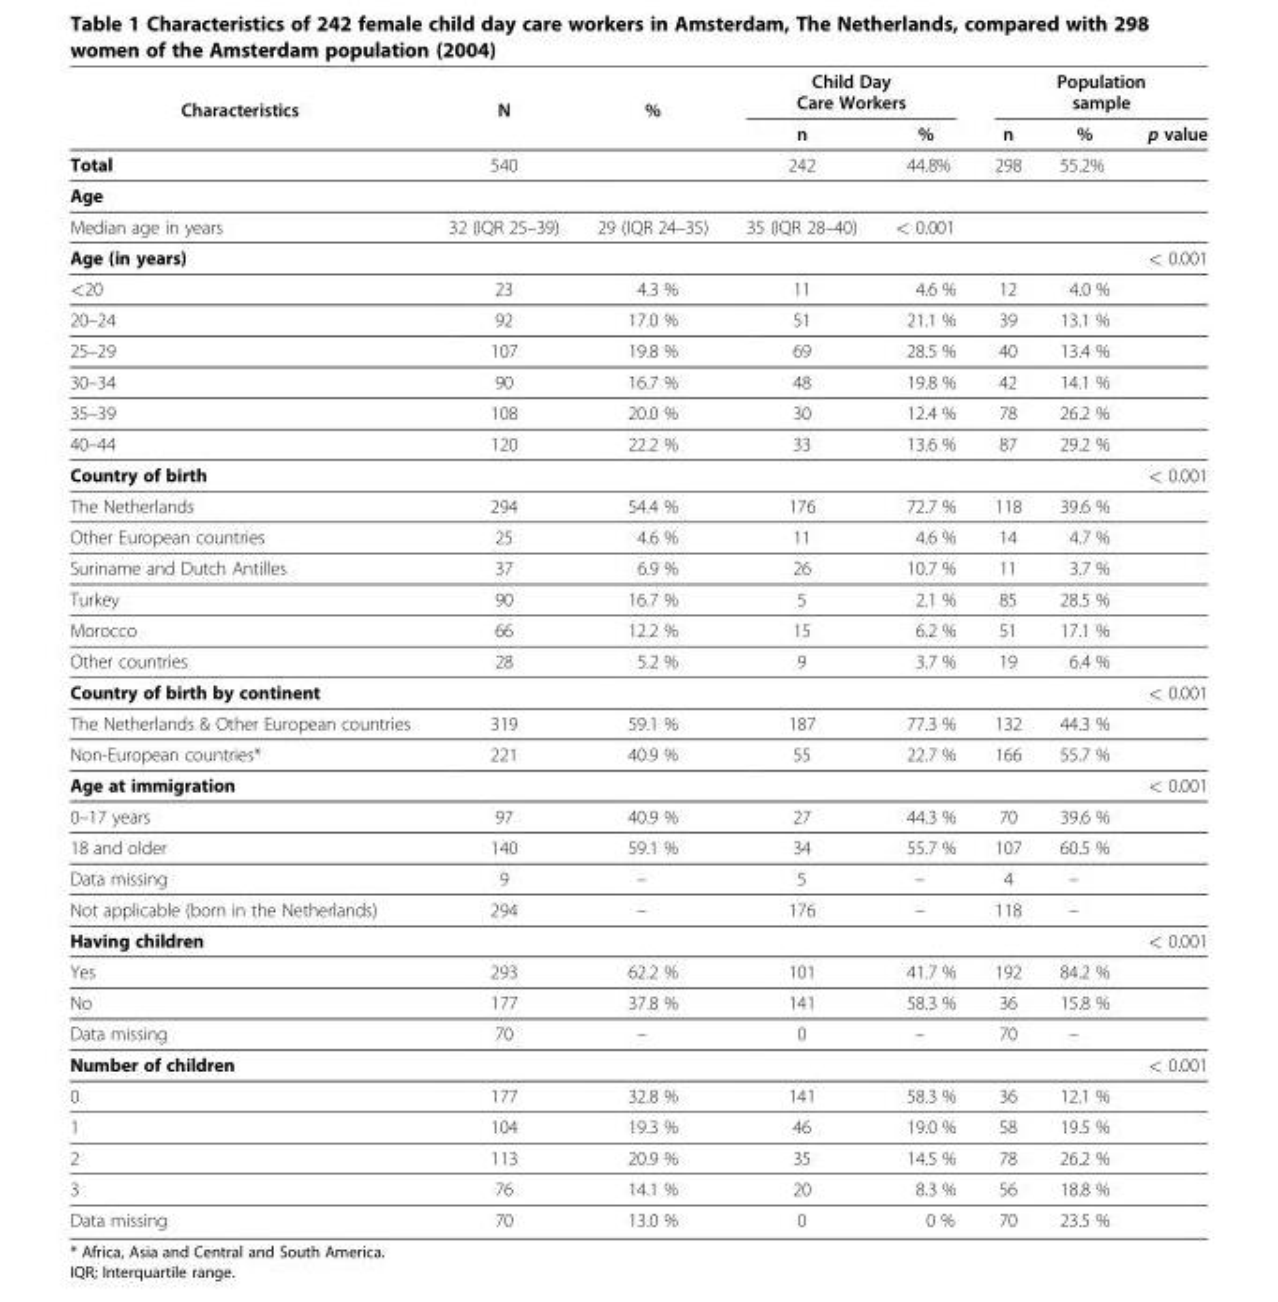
<table><thead><tr><td rowspan="2">Characteristics</td><td rowspan="2">N</td><td rowspan="2">%</td><td colspan="2">Child Day Care Workers</td><td colspan="3">Population sample</td></tr><tr><td>n</td><td>%</td><td>n</td><td>%</td><td>p value</td></tr></thead><tbody><tr><td>Total</td><td>540</td><td></td><td>242</td><td>44.8%</td><td>298</td><td>55.2%</td><td></td></tr><tr><td colspan="8">Age</td></tr><tr><td>Median age in years</td><td>32 (IQR 25–39)</td><td>29 (IQR 24–35)</td><td>35 (IQR 28–40)</td><td>&lt; 0.001</td><td></td><td></td><td></td></tr><tr><td>Age (in years)</td><td></td><td></td><td></td><td></td><td></td><td></td><td>&lt; 0.001</td></tr><tr><td>&lt;20</td><td>23</td><td>4.3 %</td><td>11</td><td>4.6 %</td><td>12</td><td>4.0 %</td><td></td></tr><tr><td>20–24</td><td>92</td><td>17.0 %</td><td>51</td><td>21.1 %</td><td>39</td><td>13.1 %</td><td></td></tr><tr><td>25–29</td><td>107</td><td>19.8 %</td><td>69</td><td>28.5 %</td><td>40</td><td>13.4 %</td><td></td></tr><tr><td>30–34</td><td>90</td><td>16.7 %</td><td>48</td><td>19.8 %</td><td>42</td><td>14.1 %</td><td></td></tr><tr><td>35–39</td><td>108</td><td>20.0 %</td><td>30</td><td>12.4 %</td><td>78</td><td>26.2 %</td><td></td></tr><tr><td>40–44</td><td>120</td><td>22.2 %</td><td>33</td><td>13.6 %</td><td>87</td><td>29.2 %</td><td></td></tr><tr><td>Country of birth</td><td></td><td></td><td></td><td></td><td></td><td></td><td>&lt; 0.001</td></tr><tr><td>The Netherlands</td><td>294</td><td>54.4 %</td><td>176</td><td>72.7 %</td><td>118</td><td>39.6 %</td><td></td></tr><tr><td>Other European countries</td><td>25</td><td>4.6 %</td><td>11</td><td>4.6 %</td><td>14</td><td>4.7 %</td><td></td></tr><tr><td>Suriname and Dutch Antilles</td><td>37</td><td>6.9 %</td><td>26</td><td>10.7 %</td><td>11</td><td>3.7 %</td><td></td></tr><tr><td>Turkey</td><td>90</td><td>16.7 %</td><td>5</td><td>2.1 %</td><td>85</td><td>28.5 %</td><td></td></tr><tr><td>Morocco</td><td>66</td><td>12.2 %</td><td>15</td><td>6.2 %</td><td>51</td><td>17.1 %</td><td></td></tr><tr><td>Other countries</td><td>28</td><td>5.2 %</td><td>9</td><td>3.7 %</td><td>19</td><td>6.4 %</td><td></td></tr><tr><td>Country of birth by continent</td><td></td><td></td><td></td><td></td><td></td><td></td><td>&lt; 0.001</td></tr><tr><td>The Netherlands &amp; Other European countries</td><td>319</td><td>59.1 %</td><td>187</td><td>77.3 %</td><td>132</td><td>44.3 %</td><td></td></tr><tr><td>Non-European countries*</td><td>221</td><td>40.9 %</td><td>55</td><td>22.7 %</td><td>166</td><td>55.7 %</td><td></td></tr><tr><td>Age at immigration</td><td></td><td></td><td></td><td></td><td></td><td></td><td>&lt; 0.001</td></tr><tr><td>0–17 years</td><td>97</td><td>40.9 %</td><td>27</td><td>44.3 %</td><td>70</td><td>39.6 %</td><td></td></tr><tr><td>18 and older</td><td>140</td><td>59.1 %</td><td>34</td><td>55.7 %</td><td>107</td><td>60.5 %</td><td></td></tr><tr><td>Data missing</td><td>9</td><td>–</td><td>5</td><td>–</td><td>4</td><td>–</td><td></td></tr><tr><td>Not applicable (born in the Netherlands)</td><td>294</td><td>–</td><td>176</td><td>–</td><td>118</td><td>–</td><td></td></tr><tr><td>Having children</td><td></td><td></td><td></td><td></td><td></td><td></td><td>&lt; 0.001</td></tr><tr><td>Yes</td><td>293</td><td>62.2 %</td><td>101</td><td>41.7 %</td><td>192</td><td>84.2 %</td><td></td></tr><tr><td>No</td><td>177</td><td>37.8 %</td><td>141</td><td>58.3 %</td><td>36</td><td>15.8 %</td><td></td></tr><tr><td>Data missing</td><td>70</td><td>–</td><td>0</td><td>–</td><td>70</td><td>–</td><td></td></tr><tr><td>Number of children</td><td></td><td></td><td></td><td></td><td></td><td></td><td>&lt; 0.001</td></tr><tr><td>0</td><td>177</td><td>32.8 %</td><td>141</td><td>58.3 %</td><td>36</td><td>12.1 %</td><td></td></tr><tr><td>1</td><td>104</td><td>19.3 %</td><td>46</td><td>19.0 %</td><td>58</td><td>19.5 %</td><td></td></tr><tr><td>2</td><td>113</td><td>20.9 %</td><td>35</td><td>14.5 %</td><td>78</td><td>26.2 %</td><td></td></tr><tr><td>3</td><td>76</td><td>14.1 %</td><td>20</td><td>8.3 %</td><td>56</td><td>18.8 %</td><td></td></tr><tr><td>Data missing</td><td>70</td><td>13.0 %</td><td>0</td><td>0 %</td><td>70</td><td>23.5 %</td><td></td></tr></tbody></table>